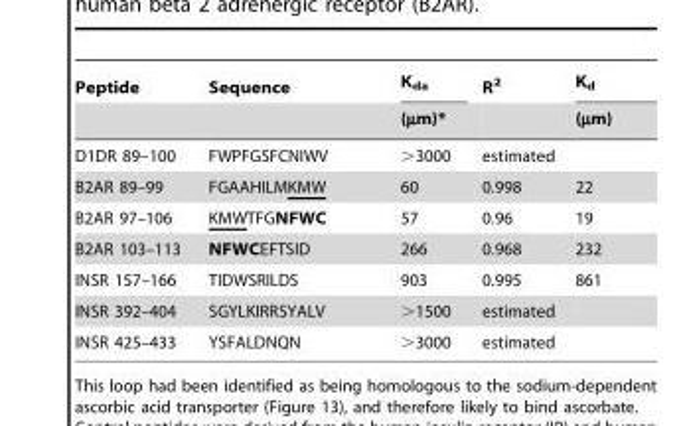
<table><thead><tr><td rowspan="2">Peptide</td><td rowspan="2">Sequence</td><td rowspan="2">Kda (µm)*</td><td rowspan="2">R<sup>2</sup></td><td rowspan="2">Kd (µm)</td></tr><tr></tr></thead><tbody><tr><td>D1DR 89–100</td><td>FWPFGSFCNIWV</td><td>&gt;3000</td><td>estimated</td><td></td></tr><tr><td>B2AR 89–99</td><td>FGAAHILMKMW</td><td>60</td><td>0.998</td><td>22</td></tr><tr><td>B2AR 97–106</td><td>KMWTFGNFWC</td><td>57</td><td>0.96</td><td>19</td></tr><tr><td>B2AR 103–113</td><td>NFWCEFTSID</td><td>266</td><td>0.968</td><td>232</td></tr><tr><td>INSR 157–166</td><td>TIDWSRILDS</td><td>903</td><td>0.995</td><td>861</td></tr><tr><td>INSR 392–404</td><td>SGYLKIRRSYALV</td><td>&gt;1500</td><td>estimated</td><td></td></tr><tr><td>INSR 425–433</td><td>YSFALDNQN</td><td>&gt;3000</td><td>estimated</td><td></td></tr></tbody></table>